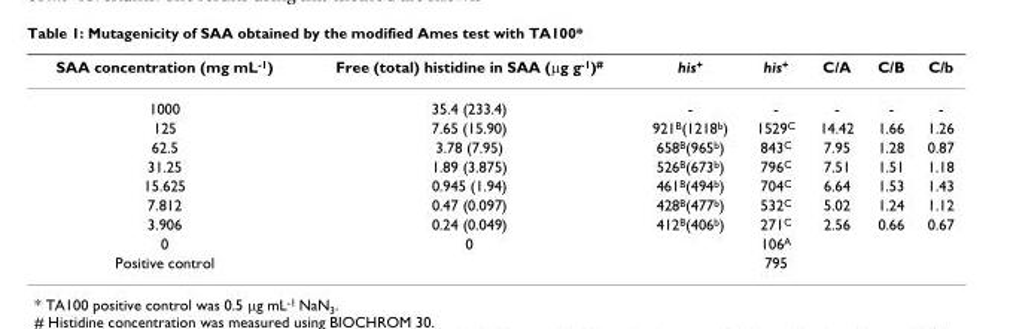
<table><thead><tr><td>SAA concentration (mg mL<sup>-1</sup>)</td><td>Free (total) histidine in SAA (μg g<sup>-1</sup>)<sup>#</sup></td><td>his<sup>+</sup></td><td>his<sup>+</sup></td><td>C/A</td><td>C/B</td><td>C/b</td></tr></thead><tbody><tr><td>1000</td><td>35.4 (233.4)</td><td>-</td><td>-</td><td>-</td><td>-</td><td>-</td></tr><tr><td>125</td><td>7.65 (15.90)</td><td>921<sup>B</sup>(1218<sup>b</sup>)</td><td>1529<sup>C</sup></td><td>14.42</td><td>1.66</td><td>1.26</td></tr><tr><td>62.5</td><td>3.78 (7.95)</td><td>658<sup>B</sup>(965<sup>b</sup>)</td><td>843<sup>C</sup></td><td>7.95</td><td>1.28</td><td>0.87</td></tr><tr><td>31.25</td><td>1.89 (3.875)</td><td>526<sup>B</sup>(673<sup>b</sup>)</td><td>796<sup>C</sup></td><td>7.51</td><td>1.51</td><td>1.18</td></tr><tr><td>15.625</td><td>0.945 (1.94)</td><td>461<sup>B</sup>(494<sup>b</sup>)</td><td>704<sup>C</sup></td><td>6.64</td><td>1.53</td><td>1.43</td></tr><tr><td>7.812</td><td>0.47 (0.097)</td><td>428<sup>B</sup>(477<sup>b</sup>)</td><td>532<sup>C</sup></td><td>5.02</td><td>1.24</td><td>1.12</td></tr><tr><td>3.906</td><td>0.24 (0.049)</td><td>412<sup>B</sup>(406<sup>b</sup>)</td><td>271<sup>C</sup></td><td>2.56</td><td>0.66</td><td>0.67</td></tr><tr><td>0</td><td>0</td><td></td><td>106<sup>A</sup></td><td></td><td></td><td></td></tr><tr><td>Positive control</td><td></td><td></td><td>795</td><td></td><td></td><td></td></tr></tbody></table>